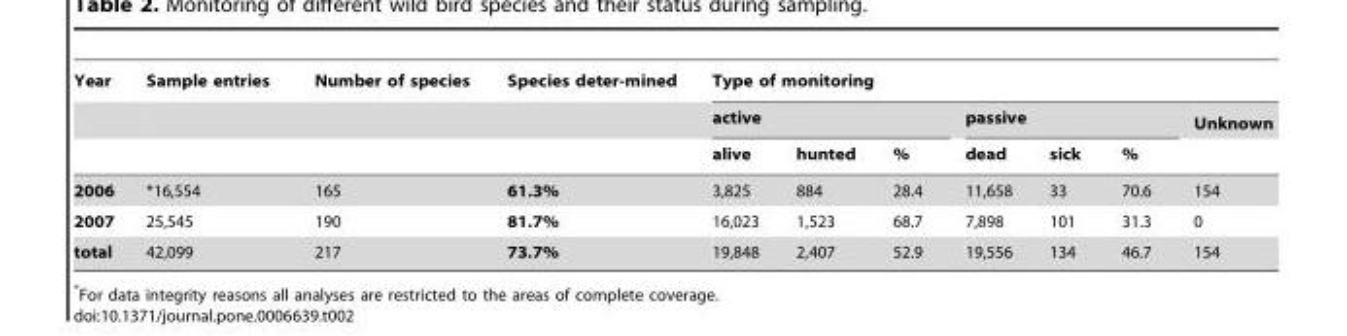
<table><thead><tr><td rowspan="3">Year</td><td rowspan="3">Sample entries</td><td rowspan="3">Number of species</td><td rowspan="3">Species deter-mined</td><td colspan="7">Type of monitoring</td></tr><tr><td colspan="3">active</td><td colspan="3">passive</td><td rowspan="2">Unknown</td></tr><tr><td>alive</td><td>hunted</td><td>%</td><td>dead</td><td>sick</td><td>%</td></tr></thead><tbody><tr><td>2006</td><td>*16,554</td><td>165</td><td>61.3%</td><td>3,825</td><td>884</td><td>28.4</td><td>11,658</td><td>33</td><td>70.6</td><td>154</td></tr><tr><td>2007</td><td>25,545</td><td>190</td><td>81.7%</td><td>16,023</td><td>1,523</td><td>68.7</td><td>7,898</td><td>101</td><td>31.3</td><td>0</td></tr><tr><td>total</td><td>42,099</td><td>217</td><td>73.7%</td><td>19,848</td><td>2,407</td><td>52.9</td><td>19,556</td><td>134</td><td>46.7</td><td>154</td></tr></tbody></table>